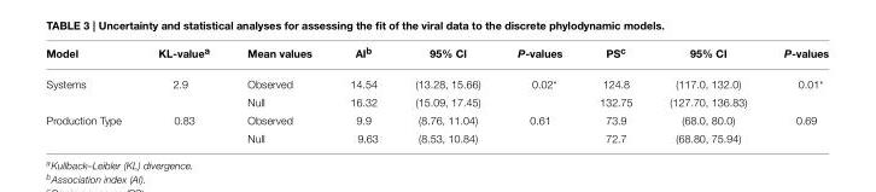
<table><thead><tr><td>Model</td><td>KL-value<sup>a</sup></td><td>Mean values</td><td>AI<sup>b</sup></td><td>95% CI</td><td>P-values</td><td>PS<sup>c</sup></td><td>95% CI</td><td>P-values</td></tr></thead><tbody><tr><td rowspan="2">Systems</td><td>2.9</td><td>Observed</td><td>14.54</td><td>(13.28, 15.66)</td><td>0.02*</td><td>124.8</td><td>(117.0, 132.0)</td><td>0.01*</td></tr><tr><td></td><td>Null</td><td>16.32</td><td>(15.09, 17.45)</td><td></td><td>132.75</td><td>(127.70, 136.83)</td><td></td></tr><tr><td rowspan="2">Production Type</td><td>0.83</td><td>Observed</td><td>9.9</td><td>(8.76, 11.04)</td><td>0.61</td><td>73.9</td><td>(68.0, 80.0)</td><td>0.69</td></tr><tr><td></td><td>Null</td><td>9.63</td><td>(8.53, 10.84)</td><td></td><td>72.7</td><td>(68.80, 75.94)</td><td></td></tr></tbody></table>